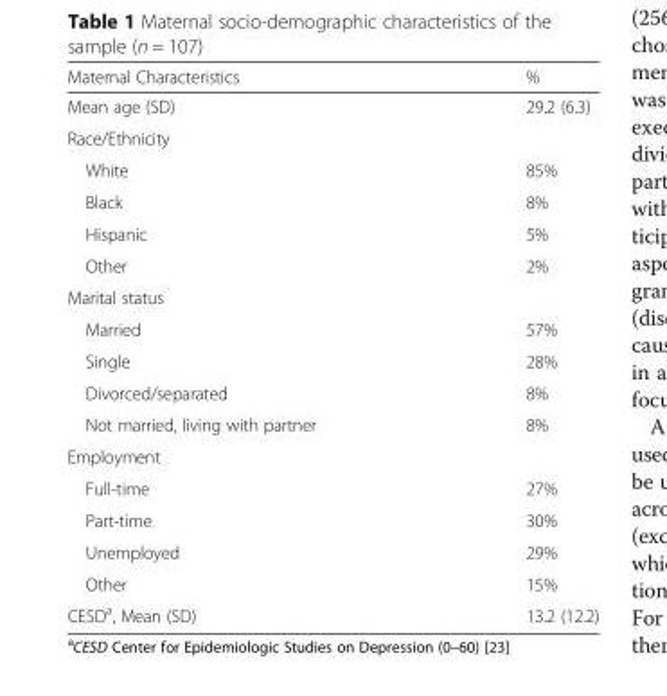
<table><thead><tr><td>Maternal Characteristics</td><td>%</td></tr></thead><tbody><tr><td>Mean age (SD)</td><td>29.2 (6.3)</td></tr><tr><td colspan="2">Race/Ethnicity</td></tr><tr><td>White</td><td>85%</td></tr><tr><td>Black</td><td>8%</td></tr><tr><td>Hispanic</td><td>5%</td></tr><tr><td>Other</td><td>2%</td></tr><tr><td colspan="2">Marital status</td></tr><tr><td>Married</td><td>57%</td></tr><tr><td>Single</td><td>28%</td></tr><tr><td>Divorced/separated</td><td>8%</td></tr><tr><td>Not married, living with partner</td><td>8%</td></tr><tr><td colspan="2">Employment</td></tr><tr><td>Full-time</td><td>27%</td></tr><tr><td>Part-time</td><td>30%</td></tr><tr><td>Unemployed</td><td>29%</td></tr><tr><td>Other</td><td>15%</td></tr><tr><td>CESD<sup>a</sup>, Mean (SD)</td><td>13.2 (12.2)</td></tr></tbody></table>